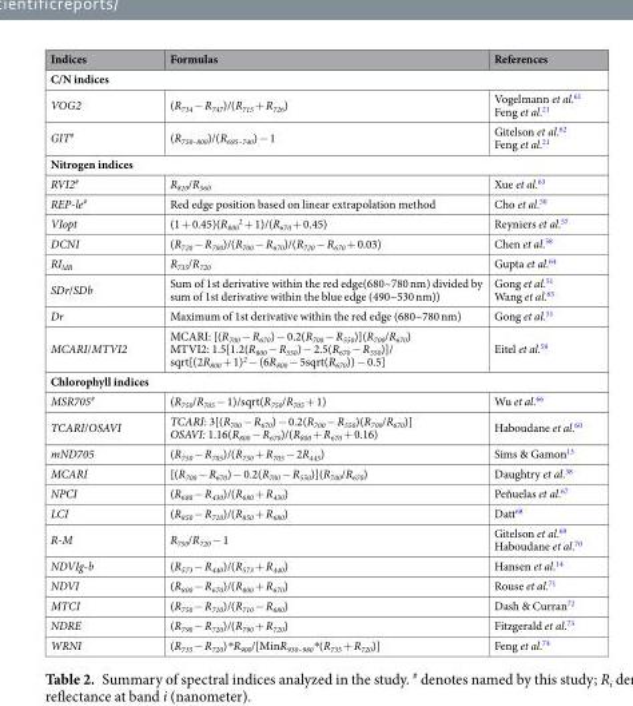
<table><thead><tr><td>Indices</td><td>Formulas</td><td>References</td></tr></thead><tbody><tr><td colspan="3">C/N indices</td></tr><tr><td>VOG2</td><td>(R<sub>734</sub> − R<sub>747</sub>)/(R<sub>715</sub> + R<sub>726</sub>)</td><td>Vogelmann et al.<sup>61</sup> Feng et al.<sup>21</sup></td></tr><tr><td>GIT<sup>#</sup></td><td>(R<sub>750–800</sub>)/(R<sub>695–740</sub>) − 1</td><td>Gitelson et al.<sup>62</sup> Feng et al.<sup>21</sup></td></tr><tr><td colspan="3">Nitrogen indices</td></tr><tr><td>RVI2<sup>#</sup></td><td>R<sub>810</sub>/R<sub>560</sub></td><td>Xue et al.<sup>63</sup></td></tr><tr><td>REP-le<sup>#</sup></td><td>Red edge position based on linear extrapolation method</td><td>Cho et al.<sup>50</sup></td></tr><tr><td>VIopt</td><td>(1 + 0.45)(R<sub>800</sub> <sup>2</sup> + 1)/(R<sub>670</sub> + 0.45)</td><td>Reyniers et al.<sup>57</sup></td></tr><tr><td>DCNI</td><td>(R<sub>720</sub> − R<sub>700</sub>)/(R<sub>700</sub> − R<sub>670</sub>)/(R<sub>720</sub> − R<sub>670</sub> + 0.03)</td><td>Chen et al.<sup>58</sup></td></tr><tr><td>RI<sub>ldB</sub></td><td>R<sub>735</sub>/R<sub>720</sub></td><td>Gupta et al.<sup>64</sup></td></tr><tr><td>SDr/SDb</td><td>Sum of 1st derivative within the red edge(680~780 nm) divided by sum of 1st derivative within the blue edge (490~530 nm))</td><td>Gong et al.<sup>51</sup> Wang et al.<sup>65</sup></td></tr><tr><td>Dr</td><td>Maximum of 1st derivative within the red edge (680~780 nm)</td><td>Gong et al.<sup>51</sup></td></tr><tr><td>MCARI/MTVI2</td><td>MCARI: [(R700 − R670) − 0.2(R700 − R550)](R700/R670) MTVI2: 1.5[1.2(R800 − R550) − 2.5(R670 − R550)]/ sqrt[(2R800 + 1)2 − (6R800 − 5sqrt(R670)) − 0.5]</td><td>Eitel et al.<sup>59</sup></td></tr><tr><td colspan="3">Chlorophyll indices</td></tr><tr><td>MSR705<sup>#</sup></td><td>(R<sub>750</sub>/R<sub>705</sub> − 1)/sqrt(R<sub>750</sub>/R<sub>705</sub> + 1)</td><td>Wu et al.<sup>66</sup></td></tr><tr><td>TCARI/OSAVI</td><td>TCARI: 3[(R700 − R670) − 0.2(R700 − R550)(R700/R670)] OSAVI: 1.16(R800 − R670)/(R800 + R670 + 0.16)</td><td>Haboudane et al.<sup>60</sup></td></tr><tr><td>mND705</td><td>(R<sub>750</sub> − R<sub>705</sub>)/(R<sub>750</sub> + R<sub>705</sub> − 2R<sub>445</sub>)</td><td>Sims &amp; Gamon<sup>13</sup></td></tr><tr><td>MCARI</td><td>[(R<sub>700</sub> − R<sub>670</sub>) − 0.2(R<sub>700</sub> − R<sub>550</sub>)](R<sub>700</sub>/R<sub>670</sub>)</td><td>Daughtry et al.<sup>38</sup></td></tr><tr><td>NPCI</td><td>(R<sub>680</sub> − R<sub>430</sub>)/(R<sub>680</sub> + R<sub>430</sub>)</td><td>Peñuelas et al.<sup>67</sup></td></tr><tr><td>LCI</td><td>(R<sub>850</sub> − R<sub>710</sub>)/(R<sub>850</sub> + R<sub>680</sub>)</td><td>Datt<sup>68</sup></td></tr><tr><td>R-M</td><td>R<sub>750</sub>/R<sub>720</sub> − 1</td><td>Gitelson et al.<sup>69</sup> Haboudane et al.<sup>70</sup></td></tr><tr><td>NDVIg-b</td><td>(R<sub>573</sub> − R<sub>440</sub>)/(R<sub>573</sub> + R<sub>440</sub>)</td><td>Hansen et al.<sup>14</sup></td></tr><tr><td>NDVI</td><td>(R<sub>800</sub> − R<sub>670</sub>)/(R<sub>800</sub> + R<sub>670</sub>)</td><td>Rouse et al.<sup>71</sup></td></tr><tr><td>MTCI</td><td>(R<sub>750</sub> − R<sub>710</sub>)/(R<sub>710</sub> − R<sub>680</sub>)</td><td>Dash &amp; Curran<sup>72</sup></td></tr><tr><td>NDRE</td><td>(R<sub>790</sub> − R<sub>720</sub>)/(R<sub>790</sub> + R<sub>720</sub>)</td><td>Fitzgerald et al.<sup>73</sup></td></tr><tr><td>WRNI</td><td>(R<sub>735</sub> − R<sub>720</sub>)*R<sub>900</sub>/[MinR<sub>930–980</sub>*(R<sub>735</sub> + R<sub>720</sub>)]</td><td>Feng et al.<sup>74</sup></td></tr></tbody></table>